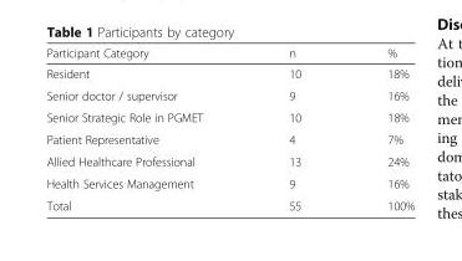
<table><thead><tr><td>Participant Category</td><td>n</td><td>%</td></tr></thead><tbody><tr><td>Resident</td><td>10</td><td>18%</td></tr><tr><td>Senior doctor / supervisor</td><td>9</td><td>16%</td></tr><tr><td>Senior Strategic Role in PGMET</td><td>10</td><td>18%</td></tr><tr><td>Patient Representative</td><td>4</td><td>7%</td></tr><tr><td>Allied Healthcare Professional</td><td>13</td><td>24%</td></tr><tr><td>Health Services Management</td><td>9</td><td>16%</td></tr><tr><td>Total</td><td>55</td><td>100%</td></tr></tbody></table>